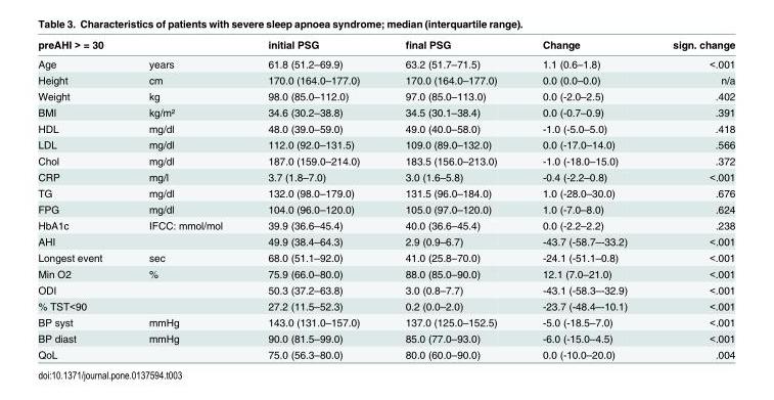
<table><thead><tr><td>preAHI &gt; = 30</td><td></td><td>initial PSG</td><td>final PSG</td><td>Change</td><td>sign. change</td></tr></thead><tbody><tr><td>Age</td><td>years</td><td>61.8 (51.2–69.9)</td><td>63.2 (51.7–71.5)</td><td>1.1 (0.6–1.8)</td><td>&lt;.001</td></tr><tr><td>Height</td><td>cm</td><td>170.0 (164.0–177.0)</td><td>170.0 (164.0–177.0)</td><td>0.0 (0.0–0.0)</td><td>n/a</td></tr><tr><td>Weight</td><td>kg</td><td>98.0 (85.0–112.0)</td><td>97.0 (85.0–113.0)</td><td>0.0 (-2.0–2.5)</td><td>.402</td></tr><tr><td>BMI</td><td>kg/m²</td><td>34.6 (30.2–38.8)</td><td>34.5 (30.1–38.4)</td><td>0.0 (-0.7–0.9)</td><td>.391</td></tr><tr><td>HDL</td><td>mg/dl</td><td>48.0 (39.0–59.0)</td><td>49.0 (40.0–58.0)</td><td>-1.0 (-5.0–5.0)</td><td>.418</td></tr><tr><td>LDL</td><td>mg/dl</td><td>112.0 (92.0–131.5)</td><td>109.0 (89.0–132.0)</td><td>0.0 (-17.0–14.0)</td><td>.566</td></tr><tr><td>Chol</td><td>mg/dl</td><td>187.0 (159.0–214.0)</td><td>183.5 (156.0–213.0)</td><td>-1.0 (-18.0–15.0)</td><td>.372</td></tr><tr><td>CRP</td><td>mg/l</td><td>3.7 (1.8–7.0)</td><td>3.0 (1.6–5.8)</td><td>-0.4 (-2.2–0.8)</td><td>&lt;.001</td></tr><tr><td>TG</td><td>mg/dl</td><td>132.0 (98.0–179.0)</td><td>131.5 (96.0–184.0)</td><td>1.0 (-28.0–30.0)</td><td>.676</td></tr><tr><td>FPG</td><td>mg/dl</td><td>104.0 (96.0–120.0)</td><td>105.0 (97.0–120.0)</td><td>1.0 (-7.0–8.0)</td><td>.624</td></tr><tr><td>HbA1c</td><td>IFCC: mmol/mol</td><td>39.9 (36.6–45.4)</td><td>40.0 (36.6–45.4)</td><td>0.0 (-2.2–2.2)</td><td>.238</td></tr><tr><td>AHI</td><td></td><td>49.9 (38.4–64.3)</td><td>2.9 (0.9–6.7)</td><td>-43.7 (-58.7–-33.2)</td><td>&lt;.001</td></tr><tr><td>Longest event</td><td>sec</td><td>68.0 (51.1–92.0)</td><td>41.0 (25.8–70.0)</td><td>-24.1 (-51.1–0.8)</td><td>&lt;.001</td></tr><tr><td>Min O2</td><td>%</td><td>75.9 (66.0–80.0)</td><td>88.0 (85.0–90.0)</td><td>12.1 (7.0–21.0)</td><td>&lt;.001</td></tr><tr><td>ODI</td><td></td><td>50.3 (37.2–63.8)</td><td>3.0 (0.8–7.7)</td><td>-43.1 (-58.3–-32.9)</td><td>&lt;.001</td></tr><tr><td>% TST&lt;90</td><td></td><td>27.2 (11.5–52.3)</td><td>0.2 (0.0–2.0)</td><td>-23.7 (-48.4–-10.1)</td><td>&lt;.001</td></tr><tr><td>BP syst</td><td>mmHg</td><td>143.0 (131.0–157.0)</td><td>137.0 (125.0–152.5)</td><td>-5.0 (-18.5–7.0)</td><td>&lt;.001</td></tr><tr><td>BP diast</td><td>mmHg</td><td>90.0 (81.5–99.0)</td><td>85.0 (77.0–93.0)</td><td>-6.0 (-15.0–4.5)</td><td>&lt;.001</td></tr><tr><td>QoL</td><td></td><td>75.0 (56.3–80.0)</td><td>80.0 (60.0–90.0)</td><td>0.0 (-10.0–20.0)</td><td>.004</td></tr></tbody></table>